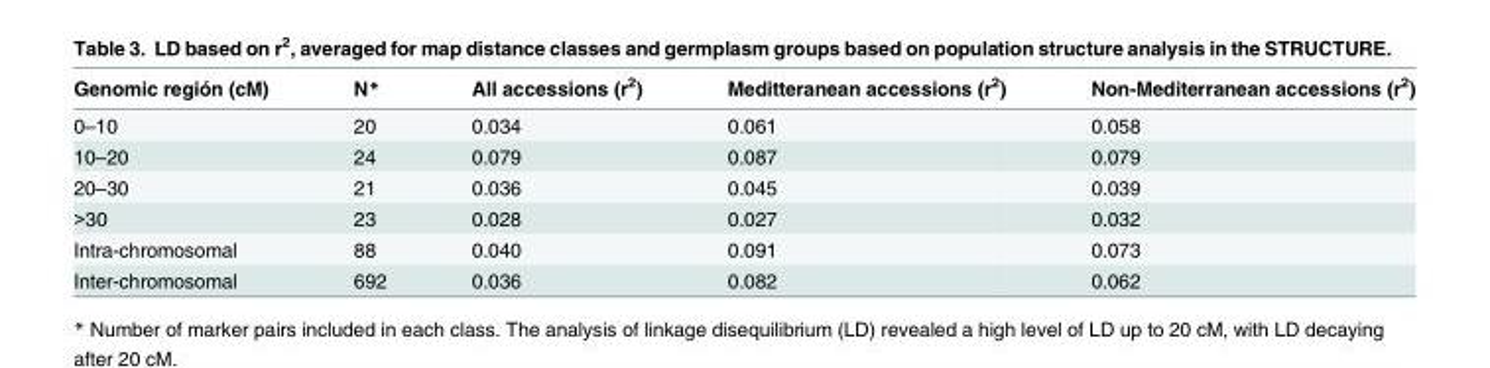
<table><thead><tr><td>Genomic región (cM)</td><td>N*</td><td>All accessions (r<sup>2</sup>)</td><td>Meditteranean accessions (r<sup>2</sup>)</td><td>Non-Mediterranean accessions (r<sup>2</sup>)</td></tr></thead><tbody><tr><td>0–10</td><td>20</td><td>0.034</td><td>0.061</td><td>0.058</td></tr><tr><td>10–20</td><td>24</td><td>0.079</td><td>0.087</td><td>0.079</td></tr><tr><td>20–30</td><td>21</td><td>0.036</td><td>0.045</td><td>0.039</td></tr><tr><td>&gt;30</td><td>23</td><td>0.028</td><td>0.027</td><td>0.032</td></tr><tr><td>Intra-chromosomal</td><td>88</td><td>0.040</td><td>0.091</td><td>0.073</td></tr><tr><td>Inter-chromosomal</td><td>692</td><td>0.036</td><td>0.082</td><td>0.062</td></tr></tbody></table>